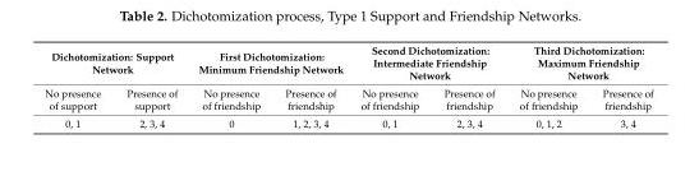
<table><thead><tr><td colspan="2">Dichotomization: Support Network</td><td colspan="2">First Dichotomization: Minimum Friendship Network</td><td colspan="2">Second Dichotomization: Intermediate Friendship Network</td><td colspan="2">Third Dichotomization: Maximum Friendship Network</td></tr><tr><td>No presence of support</td><td>Presence of support</td><td>No presence of friendship</td><td>Presence of friendship</td><td>No presence of friendship</td><td>Presence of friendship</td><td>No presence of friendship</td><td>Presence of friendship</td></tr></thead><tbody><tr><td>0, 1</td><td>2, 3, 4</td><td>0</td><td>1, 2, 3, 4</td><td>0, 1</td><td>2, 3, 4</td><td>0, 1, 2</td><td>3, 4</td></tr></tbody></table>